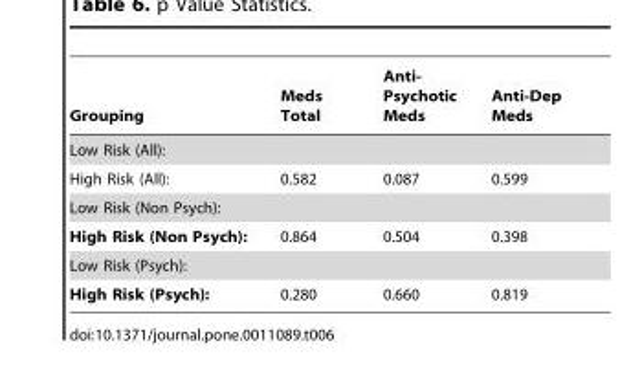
<table><thead><tr><td>Grouping</td><td>Meds Total</td><td>Anti- Psychotic Meds</td><td>Anti-Dep Meds</td></tr></thead><tbody><tr><td colspan="4">Low Risk (All):</td></tr><tr><td>High Risk (All):</td><td>0.582</td><td>0.087</td><td>0.599</td></tr><tr><td colspan="4">Low Risk (Non Psych):</td></tr><tr><td>High Risk (Non Psych):</td><td>0.864</td><td>0.504</td><td>0.398</td></tr><tr><td colspan="4">Low Risk (Psych):</td></tr><tr><td>High Risk (Psych):</td><td>0.280</td><td>0.660</td><td>0.819</td></tr></tbody></table>